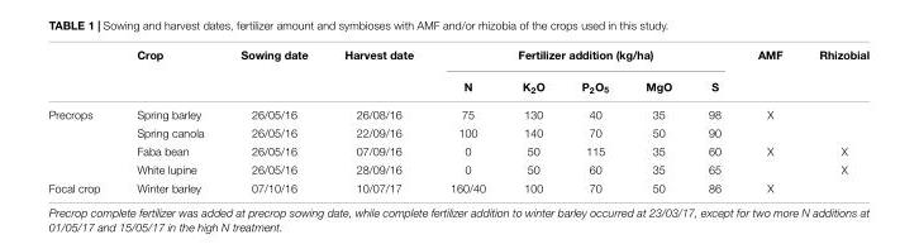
<table><thead><tr><td rowspan="2"></td><td rowspan="2">Crop</td><td rowspan="2">Sowing date</td><td rowspan="2">Harvest date</td><td colspan="5">Fertilizer addition (kg/ha)</td><td rowspan="2">AMF</td><td rowspan="2">Rhizobial</td></tr><tr><td>N</td><td>K<sub>2</sub>O</td><td>P<sub>2</sub>O<sub>5</sub></td><td>MgO</td><td>S</td></tr></thead><tbody><tr><td rowspan="4">Precrops</td><td>Spring barley</td><td>26/05/16</td><td>26/08/16</td><td>75</td><td>130</td><td>40</td><td>35</td><td>98</td><td>X</td><td></td></tr><tr><td>Spring canola</td><td>26/05/16</td><td>22/09/16</td><td>100</td><td>140</td><td>70</td><td>50</td><td>90</td><td></td><td></td></tr><tr><td>Faba bean</td><td>26/05/16</td><td>07/09/16</td><td>0</td><td>50</td><td>115</td><td>35</td><td>60</td><td>X</td><td>X</td></tr><tr><td>White lupine</td><td>26/05/16</td><td>28/09/16</td><td>0</td><td>50</td><td>60</td><td>35</td><td>65</td><td></td><td>X</td></tr><tr><td>Focal crop</td><td>Winter barley</td><td>07/10/16</td><td>10/07/17</td><td>160/40</td><td>100</td><td>70</td><td>50</td><td>86</td><td>X</td><td></td></tr></tbody></table>